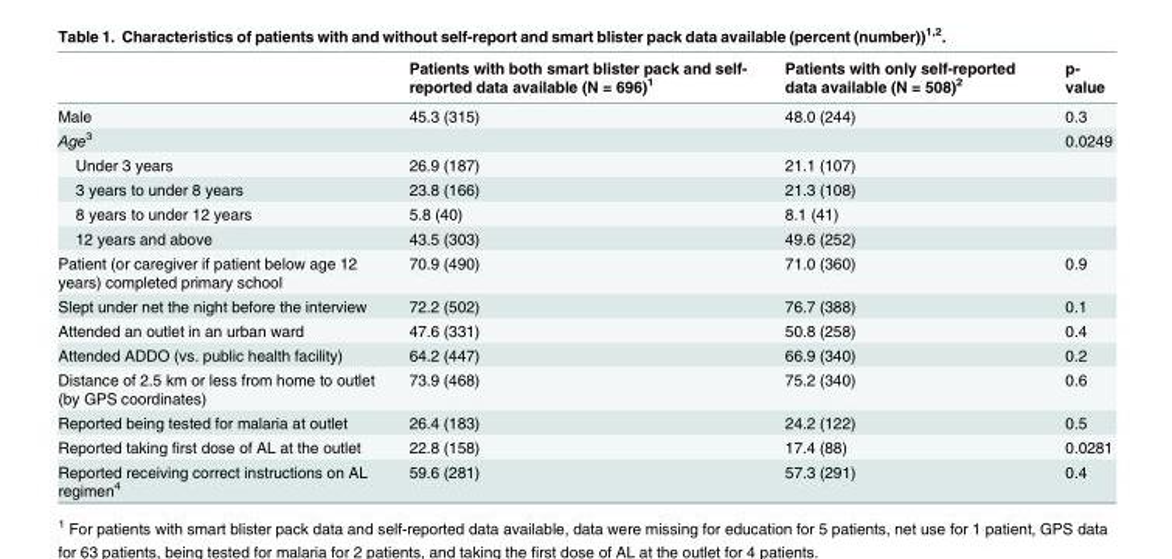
<table><thead><tr><td></td><td>Patients with both smart blister pack and self- reported data available (N = 696)<sup>1</sup></td><td>Patients with only self-reported data available (N = 508)<sup>2</sup></td><td>p- value</td></tr></thead><tbody><tr><td>Male</td><td>45.3 (315)</td><td>48.0 (244)</td><td>0.3</td></tr><tr><td>Age<sup>3</sup></td><td></td><td></td><td>0.0249</td></tr><tr><td>Under 3 years</td><td>26.9 (187)</td><td>21.1 (107)</td><td></td></tr><tr><td>3 years to under 8 years</td><td>23.8 (166)</td><td>21.3 (108)</td><td></td></tr><tr><td>8 years to under 12 years</td><td>5.8 (40)</td><td>8.1 (41)</td><td></td></tr><tr><td>12 years and above</td><td>43.5 (303)</td><td>49.6 (252)</td><td></td></tr><tr><td>Patient (or caregiver if patient below age 12 years) completed primary school</td><td>70.9 (490)</td><td>71.0 (360)</td><td>0.9</td></tr><tr><td>Slept under net the night before the interview</td><td>72.2 (502)</td><td>76.7 (388)</td><td>0.1</td></tr><tr><td>Attended an outlet in an urban ward</td><td>47.6 (331)</td><td>50.8 (258)</td><td>0.4</td></tr><tr><td>Attended ADDO (vs. public health facility)</td><td>64.2 (447)</td><td>66.9 (340)</td><td>0.2</td></tr><tr><td>Distance of 2.5 km or less from home to outlet (by GPS coordinates)</td><td>73.9 (468)</td><td>75.2 (340)</td><td>0.6</td></tr><tr><td>Reported being tested for malaria at outlet</td><td>26.4 (183)</td><td>24.2 (122)</td><td>0.5</td></tr><tr><td>Reported taking first dose of AL at the outlet</td><td>22.8 (158)</td><td>17.4 (88)</td><td>0.0281</td></tr><tr><td>Reported receiving correct instructions on AL regimen<sup>4</sup></td><td>59.6 (281)</td><td>57.3 (291)</td><td>0.4</td></tr></tbody></table>